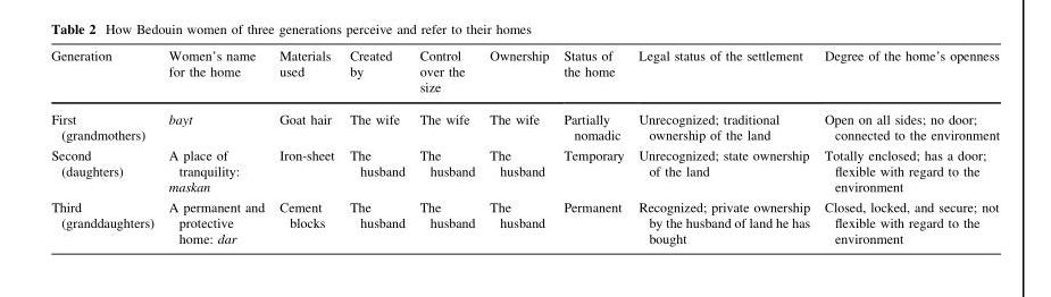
<table><thead><tr><td>Generation</td><td>Women’s name for the home</td><td>Materials used</td><td>Created by</td><td>Control over the size</td><td>Ownership</td><td>Status of the home</td><td>Legal status of the settlement</td><td>Degree of the home’s openness</td></tr></thead><tbody><tr><td>First (grandmothers)</td><td>bayt</td><td>Goat hair</td><td>The wife</td><td>The wife</td><td>The wife</td><td>Partially nomadic</td><td>Unrecognized; traditional ownership of the land</td><td>Open on all sides; no door; connected to the environment</td></tr><tr><td>Second (daughters)</td><td>A place of tranquility: maskan</td><td>Iron-sheet</td><td>The husband</td><td>The husband</td><td>The husband</td><td>Temporary</td><td>Unrecognized; state ownership of the land</td><td>Totally enclosed; has a door; flexible with regard to the environment</td></tr><tr><td>Third (granddaughters)</td><td>A permanent and protective home: dar</td><td>Cement blocks</td><td>The husband</td><td>The husband</td><td>The husband</td><td>Permanent</td><td>Recognized; private ownership by the husband of land he has bought</td><td>Closed, locked, and secure; not flexible with regard to the environment</td></tr></tbody></table>